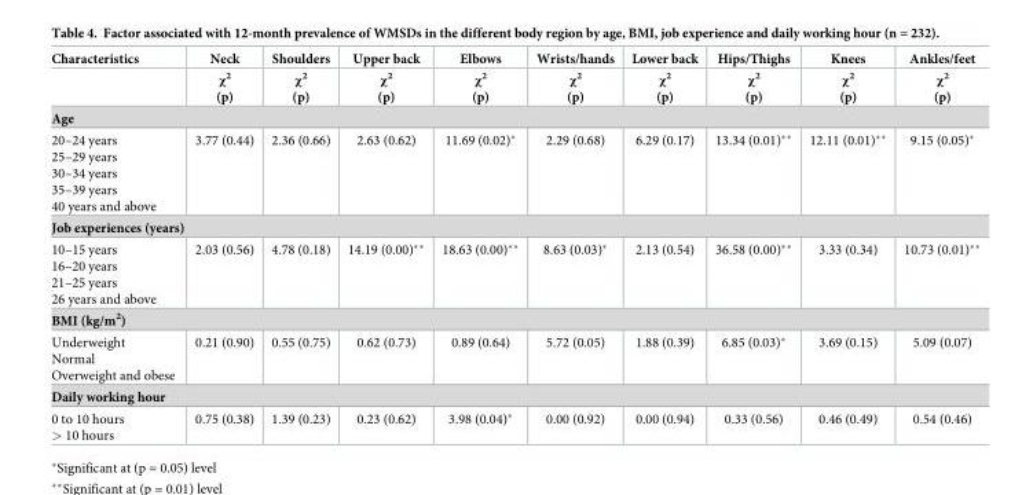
<table><thead><tr><td rowspan="2">Characteristics</td><td rowspan="2">Neck χ<sup>2</sup> (p)</td><td rowspan="2">Shoulders χ<sup>2</sup> (p)</td><td rowspan="2">Upper back χ<sup>2</sup> (p)</td><td rowspan="2">Elbows χ<sup>2</sup> (p)</td><td rowspan="2">Wrists/hands χ<sup>2</sup> (p)</td><td rowspan="2">Lower back χ<sup>2</sup> (p)</td><td rowspan="2">Hips/Thighs χ<sup>2</sup> (p)</td><td rowspan="2">Knees χ<sup>2</sup> (p)</td><td rowspan="2">Ankles/feet χ<sup>2</sup> (p)</td></tr><tr></tr></thead><tbody><tr><td colspan="10">Age</td></tr><tr><td>20–24 years 25–29 years 30–34 years 35–39 years 40 years and above</td><td>3.77 (0.44)</td><td>2.36 (0.66)</td><td>2.63 (0.62)</td><td>11.69 (0.02)*</td><td>2.29 (0.68)</td><td>6.29 (0.17)</td><td>13.34 (0.01)**</td><td>12.11 (0.01)**</td><td>9.15 (0.05)*</td></tr><tr><td colspan="10">Job experiences (years)</td></tr><tr><td>10–15 years 16–20 years 21–25 years 26 years and above</td><td>2.03 (0.56)</td><td>4.78 (0.18)</td><td>14.19 (0.00)**</td><td>18.63 (0.00)**</td><td>8.63 (0.03)*</td><td>2.13 (0.54)</td><td>36.58 (0.00)**</td><td>3.33 (0.34)</td><td>10.73 (0.01)**</td></tr><tr><td colspan="10">BMI (kg/m<sup>2</sup>)</td></tr><tr><td>Underweight Normal Overweight and obese</td><td>0.21 (0.90)</td><td>0.55 (0.75)</td><td>0.62 (0.73)</td><td>0.89 (0.64)</td><td>5.72 (0.05)</td><td>1.88 (0.39)</td><td>6.85 (0.03)*</td><td>3.69 (0.15)</td><td>5.09 (0.07)</td></tr><tr><td colspan="10">Daily working hour</td></tr><tr><td>0 to 10 hours &gt; 10 hours</td><td>0.75 (0.38)</td><td>1.39 (0.23)</td><td>0.23 (0.62)</td><td>3.98 (0.04)*</td><td>0.00 (0.92)</td><td>0.00 (0.94)</td><td>0.33 (0.56)</td><td>0.46 (0.49)</td><td>0.54 (0.46)</td></tr></tbody></table>